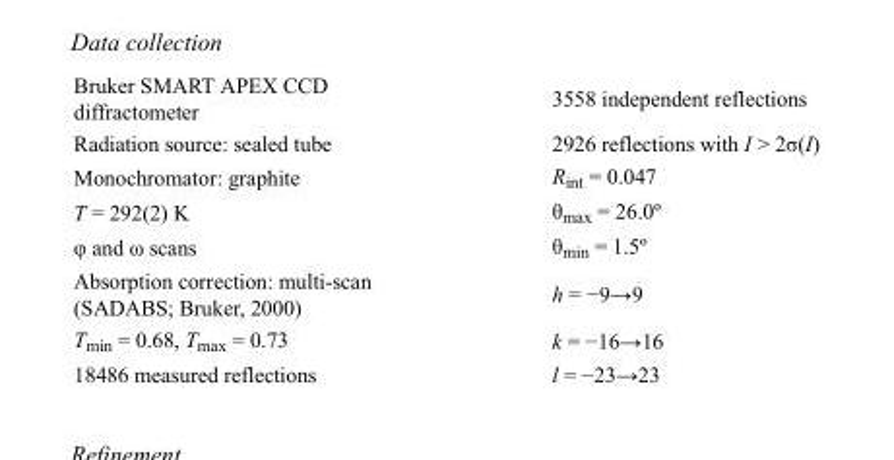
<table><tbody><tr><td>Bruker SMART APEX CCD diffractometer</td><td>3558 independent reflections</td></tr><tr><td>Radiation source: sealed tube</td><td>2926 reflections with I &gt; 2σ(I)</td></tr><tr><td>Monochromator: graphite</td><td>R<sub>int</sub> = 0.047</td></tr><tr><td>T = 292(2) K</td><td>θ<sub>max</sub> = 26.0º</td></tr><tr><td>φ and ω scans</td><td>θ<sub>min</sub> = 1.5º</td></tr><tr><td>Absorption correction: multi-scan (SADABS; Bruker, 2000)</td><td>h = −9→9</td></tr><tr><td>T<sub>min</sub> = 0.68, T<sub>max</sub> = 0.73</td><td>k = −16→16</td></tr><tr><td>18486 measured reflections</td><td>l = −23→23</td></tr></tbody></table>